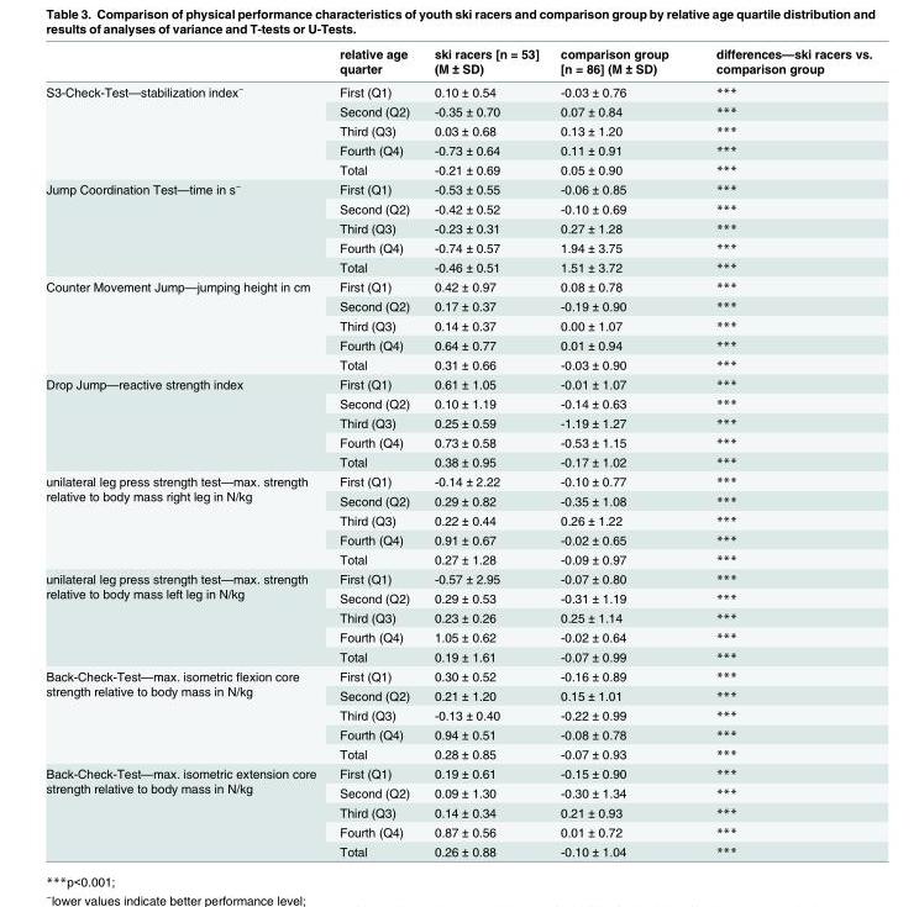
<table><thead><tr><td></td><td>relative age quarter</td><td>ski racers [n = 53] (M ± SD)</td><td>comparison group [n = 86] (M ± SD)</td><td>differences—ski racers vs. comparison group</td></tr></thead><tbody><tr><td rowspan="5">S3-Check-Test—stabilization index<sup>~</sup></td><td>First (Q1)</td><td>0.10 ± 0.54</td><td>-0.03 ± 0.76</td><td>***</td></tr><tr><td>Second (Q2)</td><td>-0.35 ± 0.70</td><td>0.07 ± 0.84</td><td>***</td></tr><tr><td>Third (Q3)</td><td>0.03 ± 0.68</td><td>0.13 ± 1.20</td><td>***</td></tr><tr><td>Fourth (Q4)</td><td>-0.73 ± 0.64</td><td>0.11 ± 0.91</td><td>***</td></tr><tr><td>Total</td><td>-0.21 ± 0.69</td><td>0.05 ± 0.90</td><td>***</td></tr><tr><td rowspan="5">Jump Coordination Test—time in s<sup>~</sup></td><td>First (Q1)</td><td>-0.53 ± 0.55</td><td>-0.06 ± 0.85</td><td>***</td></tr><tr><td>Second (Q2)</td><td>-0.42 ± 0.52</td><td>-0.10 ± 0.69</td><td>***</td></tr><tr><td>Third (Q3)</td><td>-0.23 ± 0.31</td><td>0.27 ± 1.28</td><td>***</td></tr><tr><td>Fourth (Q4)</td><td>-0.74 ± 0.57</td><td>1.94 ± 3.75</td><td>***</td></tr><tr><td>Total</td><td>-0.46 ± 0.51</td><td>1.51 ± 3.72</td><td>***</td></tr><tr><td rowspan="5">Counter Movement Jump—jumping height in cm</td><td>First (Q1)</td><td>0.42 ± 0.97</td><td>0.08 ± 0.78</td><td>***</td></tr><tr><td>Second (Q2)</td><td>0.17 ± 0.37</td><td>-0.19 ± 0.90</td><td>***</td></tr><tr><td>Third (Q3)</td><td>0.14 ± 0.37</td><td>0.00 ± 1.07</td><td>***</td></tr><tr><td>Fourth (Q4)</td><td>0.64 ± 0.77</td><td>0.01 ± 0.94</td><td>***</td></tr><tr><td>Total</td><td>0.31 ± 0.66</td><td>-0.03 ± 0.90</td><td>***</td></tr><tr><td rowspan="5">Drop Jump—reactive strength index</td><td>First (Q1)</td><td>0.61 ± 1.05</td><td>-0.01 ± 1.07</td><td>***</td></tr><tr><td>Second (Q2)</td><td>0.10 ± 1.19</td><td>-0.14 ± 0.63</td><td>***</td></tr><tr><td>Third (Q3)</td><td>0.25 ± 0.59</td><td>-1.19 ± 1.27</td><td>***</td></tr><tr><td>Fourth (Q4)</td><td>0.73 ± 0.58</td><td>-0.53 ± 1.15</td><td>***</td></tr><tr><td>Total</td><td>0.38 ± 0.95</td><td>-0.17 ± 1.02</td><td>***</td></tr><tr><td rowspan="5">unilateral leg press strength test—max. strength relative to body mass right leg in N/kg</td><td>First (Q1)</td><td>-0.14 ± 2.22</td><td>-0.10 ± 0.77</td><td>***</td></tr><tr><td>Second (Q2)</td><td>0.29 ± 0.82</td><td>-0.35 ± 1.08</td><td>***</td></tr><tr><td>Third (Q3)</td><td>0.22 ± 0.44</td><td>0.26 ± 1.22</td><td>***</td></tr><tr><td>Fourth (Q4)</td><td>0.91 ± 0.67</td><td>-0.02 ± 0.65</td><td>***</td></tr><tr><td>Total</td><td>0.27 ± 1.28</td><td>-0.09 ± 0.97</td><td>***</td></tr><tr><td rowspan="5">unilateral leg press strength test—max. strength relative to body mass left leg in N/kg</td><td>First (Q1)</td><td>-0.57 ± 2.95</td><td>-0.07 ± 0.80</td><td>***</td></tr><tr><td>Second (Q2)</td><td>0.29 ± 0.53</td><td>-0.31 ± 1.19</td><td>***</td></tr><tr><td>Third (Q3)</td><td>0.23 ± 0.26</td><td>0.25 ± 1.14</td><td>***</td></tr><tr><td>Fourth (Q4)</td><td>1.05 ± 0.62</td><td>-0.02 ± 0.64</td><td>***</td></tr><tr><td>Total</td><td>0.19 ± 1.61</td><td>-0.07 ± 0.99</td><td>***</td></tr><tr><td rowspan="5">Back-Check-Test—max. isometric flexion core strength relative to body mass in N/kg</td><td>First (Q1)</td><td>0.30 ± 0.52</td><td>-0.16 ± 0.89</td><td>***</td></tr><tr><td>Second (Q2)</td><td>0.21 ± 1.20</td><td>0.15 ± 1.01</td><td>***</td></tr><tr><td>Third (Q3)</td><td>-0.13 ± 0.40</td><td>-0.22 ± 0.99</td><td>***</td></tr><tr><td>Fourth (Q4)</td><td>0.94 ± 0.51</td><td>-0.08 ± 0.78</td><td>***</td></tr><tr><td>Total</td><td>0.28 ± 0.85</td><td>-0.07 ± 0.93</td><td>***</td></tr><tr><td rowspan="5">Back-Check-Test—max. isometric extension core strength relative to body mass in N/kg</td><td>First (Q1)</td><td>0.19 ± 0.61</td><td>-0.15 ± 0.90</td><td>***</td></tr><tr><td>Second (Q2)</td><td>0.09 ± 1.30</td><td>-0.30 ± 1.34</td><td>***</td></tr><tr><td>Third (Q3)</td><td>0.14 ± 0.34</td><td>0.21 ± 0.93</td><td>***</td></tr><tr><td>Fourth (Q4)</td><td>0.87 ± 0.56</td><td>0.01 ± 0.72</td><td>***</td></tr><tr><td>Total</td><td>0.26 ± 0.88</td><td>-0.10 ± 1.04</td><td>***</td></tr></tbody></table>